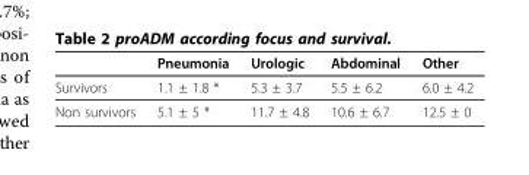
<table><thead><tr><td></td><td>Pneumonia</td><td>Urologic</td><td>Abdominal</td><td>Other</td></tr></thead><tbody><tr><td>Survivors</td><td>1.1 ± 1.8 *</td><td>5.3 ± 3.7</td><td>5.5 ± 6.2</td><td>6.0 ± 4.2</td></tr><tr><td>Non survivors</td><td>5.1 ± 5 *</td><td>11.7 ± 4.8</td><td>10.6 ± 6.7</td><td>12.5 ± 0</td></tr></tbody></table>